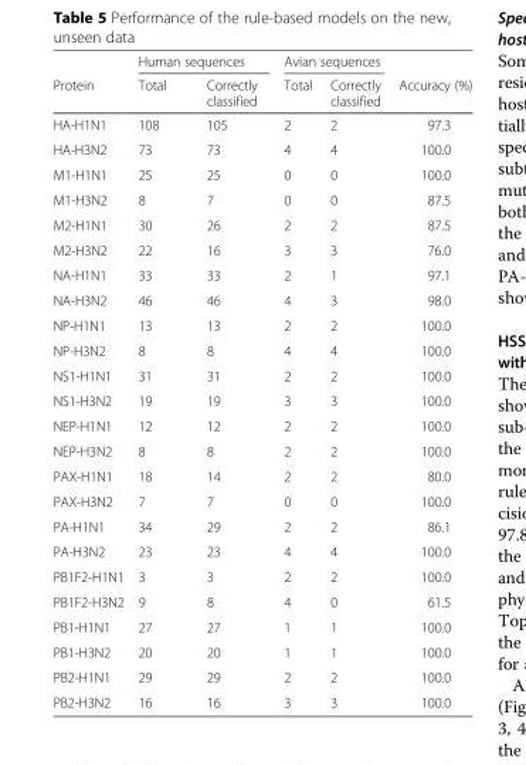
<table><thead><tr><td rowspan="2">Protein</td><td colspan="2">Human sequences</td><td colspan="2">Avian sequences</td><td rowspan="2">Accuracy (%)</td></tr><tr><td>Total</td><td>Correctly classified</td><td>Total</td><td>Correctly classified</td></tr></thead><tbody><tr><td>HA-H1N1</td><td>108</td><td>105</td><td>2</td><td>2</td><td>97.3</td></tr><tr><td>HA-H3N2</td><td>73</td><td>73</td><td>4</td><td>4</td><td>100.0</td></tr><tr><td>M1-H1N1</td><td>25</td><td>25</td><td>0</td><td>0</td><td>100.0</td></tr><tr><td>M1-H3N2</td><td>8</td><td>7</td><td>0</td><td>0</td><td>87.5</td></tr><tr><td>M2-H1N1</td><td>30</td><td>26</td><td>2</td><td>2</td><td>87.5</td></tr><tr><td>M2-H3N2</td><td>22</td><td>16</td><td>3</td><td>3</td><td>76.0</td></tr><tr><td>NA-H1N1</td><td>33</td><td>33</td><td>2</td><td>1</td><td>97.1</td></tr><tr><td>NA-H3N2</td><td>46</td><td>46</td><td>4</td><td>3</td><td>98.0</td></tr><tr><td>NP-H1N1</td><td>13</td><td>13</td><td>2</td><td>2</td><td>100.0</td></tr><tr><td>NP-H3N2</td><td>8</td><td>8</td><td>4</td><td>4</td><td>100.0</td></tr><tr><td>NS1-H1N1</td><td>31</td><td>31</td><td>2</td><td>2</td><td>100.0</td></tr><tr><td>NS1-H3N2</td><td>19</td><td>19</td><td>3</td><td>3</td><td>100.0</td></tr><tr><td>NEP-H1N1</td><td>12</td><td>12</td><td>2</td><td>2</td><td>100.0</td></tr><tr><td>NEP-H3N2</td><td>8</td><td>8</td><td>2</td><td>2</td><td>100.0</td></tr><tr><td>PAX-H1N1</td><td>18</td><td>14</td><td>2</td><td>2</td><td>80.0</td></tr><tr><td>PAX-H3N2</td><td>7</td><td>7</td><td>0</td><td>0</td><td>100.0</td></tr><tr><td>PA-H1N1</td><td>34</td><td>29</td><td>2</td><td>2</td><td>86.1</td></tr><tr><td>PA-H3N2</td><td>23</td><td>23</td><td>4</td><td>4</td><td>100.0</td></tr><tr><td>PB1F2-H1N1</td><td>3</td><td>3</td><td>2</td><td>2</td><td>100.0</td></tr><tr><td>PB1F2-H3N2</td><td>9</td><td>8</td><td>4</td><td>0</td><td>61.5</td></tr><tr><td>PB1-H1N1</td><td>27</td><td>27</td><td>1</td><td>1</td><td>100.0</td></tr><tr><td>PB1-H3N2</td><td>20</td><td>20</td><td>1</td><td>1</td><td>100.0</td></tr><tr><td>PB2-H1N1</td><td>29</td><td>29</td><td>2</td><td>2</td><td>100.0</td></tr><tr><td>PB2-H3N2</td><td>16</td><td>16</td><td>3</td><td>3</td><td>100.0</td></tr></tbody></table>